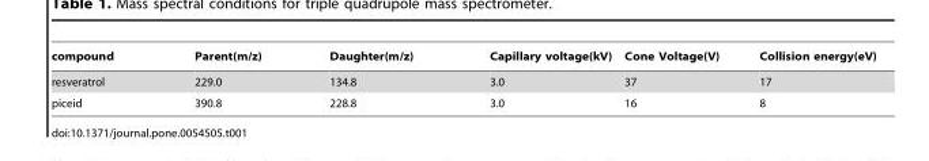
<table><thead><tr><td>compound</td><td>Parent(m/z)</td><td>Daughter(m/z)</td><td>Capillary voltage(kV)</td><td>Cone Voltage(V)</td><td>Collision energy(eV)</td></tr></thead><tbody><tr><td>resveratrol</td><td>229.0</td><td>134.8</td><td>3.0</td><td>37</td><td>17</td></tr><tr><td>piceid</td><td>390.8</td><td>228.8</td><td>3.0</td><td>16</td><td>8</td></tr></tbody></table>